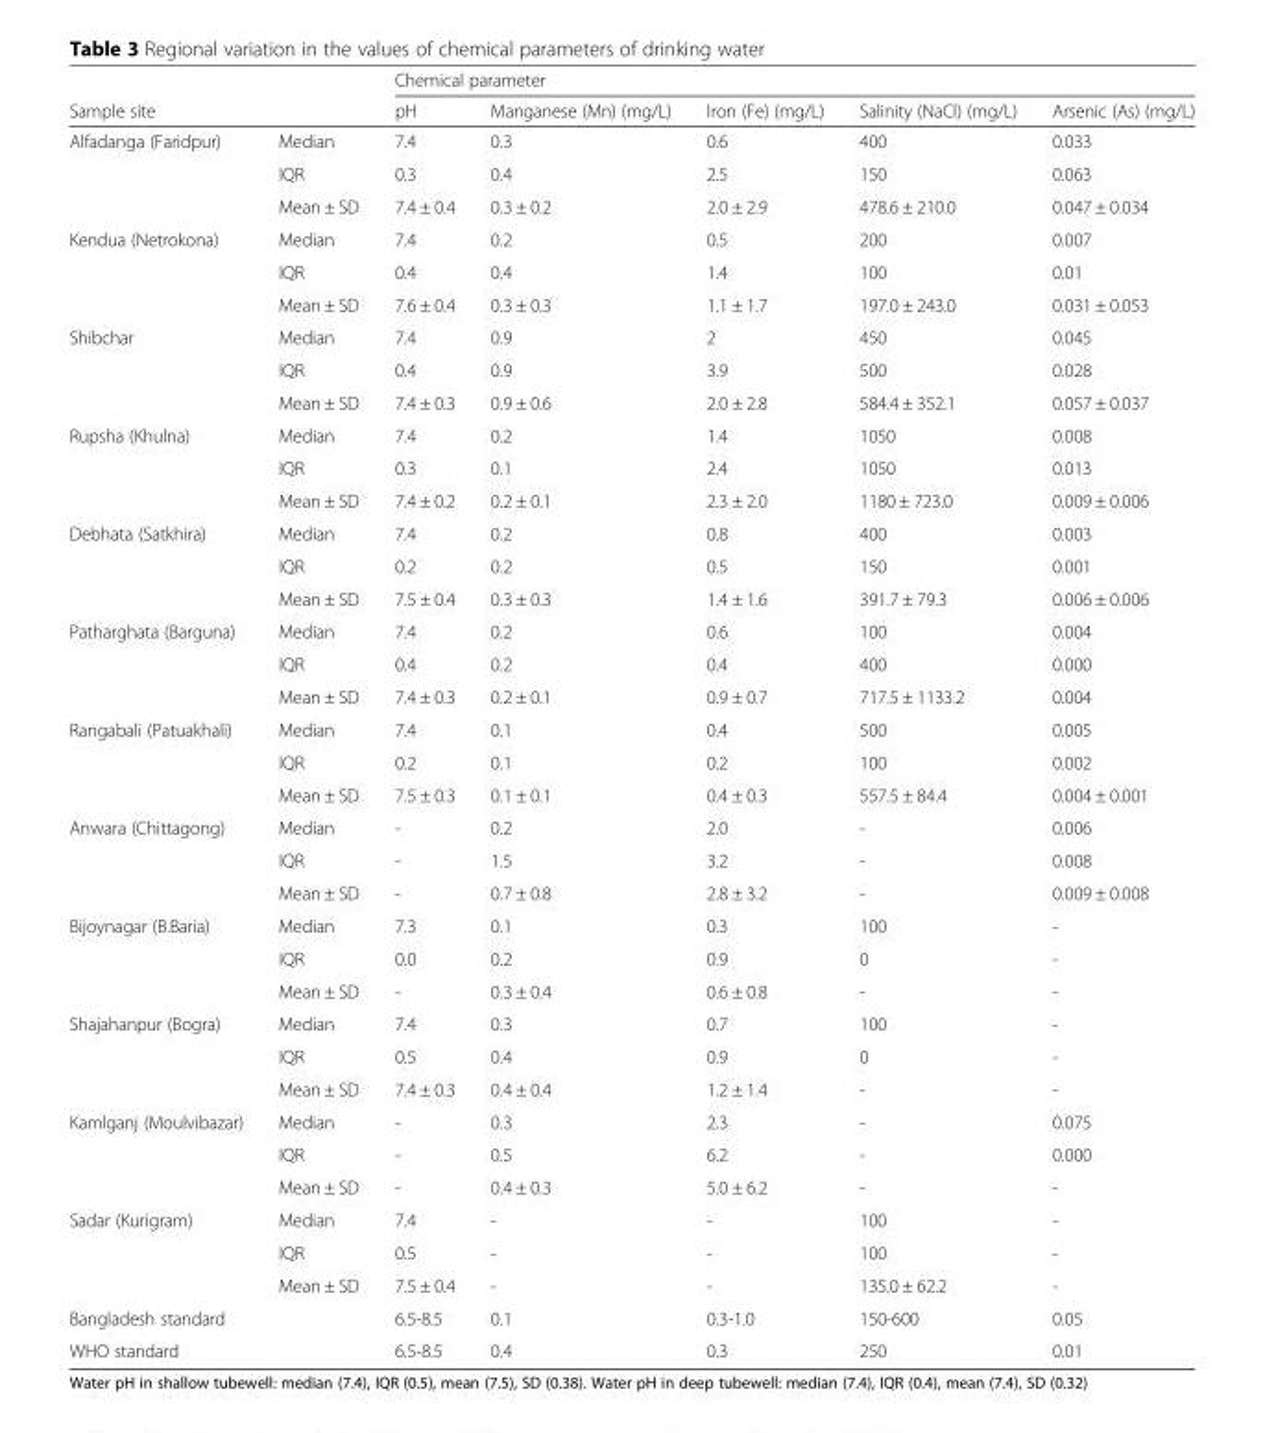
<table><thead><tr><td></td><td></td><td colspan="5">Chemical parameter</td></tr><tr><td colspan="2">Sample site</td><td>pH</td><td>Manganese (Mn) (mg/L)</td><td>Iron (Fe) (mg/L)</td><td>Salinity (NaCl) (mg/L)</td><td>Arsenic (As) (mg/L)</td></tr></thead><tbody><tr><td rowspan="3">Alfadanga (Faridpur)</td><td>Median</td><td>7.4</td><td>0.3</td><td>0.6</td><td>400</td><td>0.033</td></tr><tr><td>IQR</td><td>0.3</td><td>0.4</td><td>2.5</td><td>150</td><td>0.063</td></tr><tr><td>Mean ± SD</td><td>7.4 ± 0.4</td><td>0.3 ± 0.2</td><td>2.0 ± 2.9</td><td>478.6 ± 210.0</td><td>0.047 ± 0.034</td></tr><tr><td rowspan="3">Kendua (Netrokona)</td><td>Median</td><td>7.4</td><td>0.2</td><td>0.5</td><td>200</td><td>0.007</td></tr><tr><td>IQR</td><td>0.4</td><td>0.4</td><td>1.4</td><td>100</td><td>0.01</td></tr><tr><td>Mean ± SD</td><td>7.6 ± 0.4</td><td>0.3 ± 0.3</td><td>1.1 ± 1.7</td><td>197.0 ± 243.0</td><td>0.031 ± 0.053</td></tr><tr><td rowspan="3">Shibchar</td><td>Median</td><td>7.4</td><td>0.9</td><td>2</td><td>450</td><td>0.045</td></tr><tr><td>IQR</td><td>0.4</td><td>0.9</td><td>3.9</td><td>500</td><td>0.028</td></tr><tr><td>Mean ± SD</td><td>7.4 ± 0.3</td><td>0.9 ± 0.6</td><td>2.0 ± 2.8</td><td>584.4 ± 352.1</td><td>0.057 ± 0.037</td></tr><tr><td rowspan="3">Rupsha (Khulna)</td><td>Median</td><td>7.4</td><td>0.2</td><td>1.4</td><td>1050</td><td>0.008</td></tr><tr><td>IQR</td><td>0.3</td><td>0.1</td><td>2.4</td><td>1050</td><td>0.013</td></tr><tr><td>Mean ± SD</td><td>7.4 ± 0.2</td><td>0.2 ± 0.1</td><td>2.3 ± 2.0</td><td>1180 ± 723.0</td><td>0.009 ± 0.006</td></tr><tr><td rowspan="3">Debhata (Satkhira)</td><td>Median</td><td>7.4</td><td>0.2</td><td>0.8</td><td>400</td><td>0.003</td></tr><tr><td>IQR</td><td>0.2</td><td>0.2</td><td>0.5</td><td>150</td><td>0.001</td></tr><tr><td>Mean ± SD</td><td>7.5 ± 0.4</td><td>0.3 ± 0.3</td><td>1.4 ± 1.6</td><td>391.7 ± 79.3</td><td>0.006 ± 0.006</td></tr><tr><td rowspan="3">Patharghata (Barguna)</td><td>Median</td><td>7.4</td><td>0.2</td><td>0.6</td><td>100</td><td>0.004</td></tr><tr><td>IQR</td><td>0.4</td><td>0.2</td><td>0.4</td><td>400</td><td>0.000</td></tr><tr><td>Mean ± SD</td><td>7.4 ± 0.3</td><td>0.2 ± 0.1</td><td>0.9 ± 0.7</td><td>717.5 ± 1133.2</td><td>0.004</td></tr><tr><td rowspan="3">Rangabali (Patuakhali)</td><td>Median</td><td>7.4</td><td>0.1</td><td>0.4</td><td>500</td><td>0.005</td></tr><tr><td>IQR</td><td>0.2</td><td>0.1</td><td>0.2</td><td>100</td><td>0.002</td></tr><tr><td>Mean ± SD</td><td>7.5 ± 0.3</td><td>0.1 ± 0.1</td><td>0.4 ± 0.3</td><td>557.5 ± 84.4</td><td>0.004 ± 0.001</td></tr><tr><td rowspan="3">Anwara (Chittagong)</td><td>Median</td><td>-</td><td>0.2</td><td>2.0</td><td>-</td><td>0.006</td></tr><tr><td>IQR</td><td>-</td><td>1.5</td><td>3.2</td><td>-</td><td>0.008</td></tr><tr><td>Mean ± SD</td><td>-</td><td>0.7 ± 0.8</td><td>2.8 ± 3.2</td><td>-</td><td>0.009 ± 0.008</td></tr><tr><td rowspan="3">Bijoynagar (B.Baria)</td><td>Median</td><td>7.3</td><td>0.1</td><td>0.3</td><td>100</td><td>-</td></tr><tr><td>IQR</td><td>0.0</td><td>0.2</td><td>0.9</td><td>0</td><td>-</td></tr><tr><td>Mean ± SD</td><td>-</td><td>0.3 ± 0.4</td><td>0.6 ± 0.8</td><td>-</td><td>-</td></tr><tr><td rowspan="3">Shajahanpur (Bogra)</td><td>Median</td><td>7.4</td><td>0.3</td><td>0.7</td><td>100</td><td>-</td></tr><tr><td>IQR</td><td>0.5</td><td>0.4</td><td>0.9</td><td>0</td><td>-</td></tr><tr><td>Mean ± SD</td><td>7.4 ± 0.3</td><td>0.4 ± 0.4</td><td>1.2 ± 1.4</td><td>-</td><td>-</td></tr><tr><td rowspan="3">Kamlganj (Moulvibazar)</td><td>Median</td><td>-</td><td>0.3</td><td>2.3</td><td>-</td><td>0.075</td></tr><tr><td>IQR</td><td>-</td><td>0.5</td><td>6.2</td><td>-</td><td>0.000</td></tr><tr><td>Mean ± SD</td><td>-</td><td>0.4 ± 0.3</td><td>5.0 ± 6.2</td><td>-</td><td>-</td></tr><tr><td rowspan="3">Sadar (Kurigram)</td><td>Median</td><td>7.4</td><td>-</td><td>-</td><td>100</td><td>-</td></tr><tr><td>IQR</td><td>0.5</td><td>-</td><td>-</td><td>100</td><td>-</td></tr><tr><td>Mean ± SD</td><td>7.5 ± 0.4</td><td>-</td><td>-</td><td>135.0 ± 62.2</td><td>-</td></tr><tr><td colspan="2">Bangladesh standard</td><td>6.5-8.5</td><td>0.1</td><td>0.3-1.0</td><td>150-600</td><td>0.05</td></tr><tr><td colspan="2">WHO standard</td><td>6.5-8.5</td><td>0.4</td><td>0.3</td><td>250</td><td>0.01</td></tr></tbody></table>